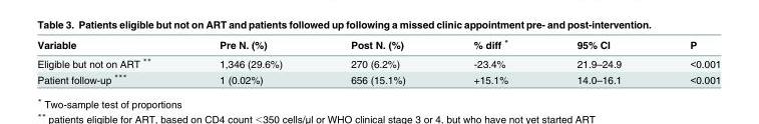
<table><thead><tr><td>Variable</td><td>Pre N. (%)</td><td>Post N. (%)</td><td>% diff *</td><td>95% CI</td><td>P</td></tr></thead><tbody><tr><td>Eligible but not on ART **</td><td>1,346 (29.6%)</td><td>270 (6.2%)</td><td>-23.4%</td><td>21.9–24.9</td><td>&lt;0.001</td></tr><tr><td>Patient follow-up ***</td><td>1 (0.02%)</td><td>656 (15.1%)</td><td>+15.1%</td><td>14.0–16.1</td><td>&lt;0.001</td></tr></tbody></table>